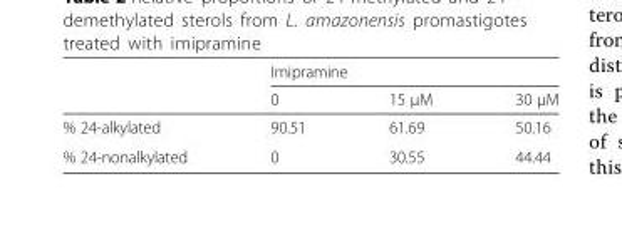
<table><thead><tr><td rowspan="2"></td><td colspan="3">Imipramine</td></tr><tr><td>0</td><td>15 μM</td><td>30 μM</td></tr></thead><tbody><tr><td>% 24-alkylated</td><td>90.51</td><td>61.69</td><td>50.16</td></tr><tr><td>% 24-nonalkylated</td><td>0</td><td>30.55</td><td>44.44</td></tr></tbody></table>